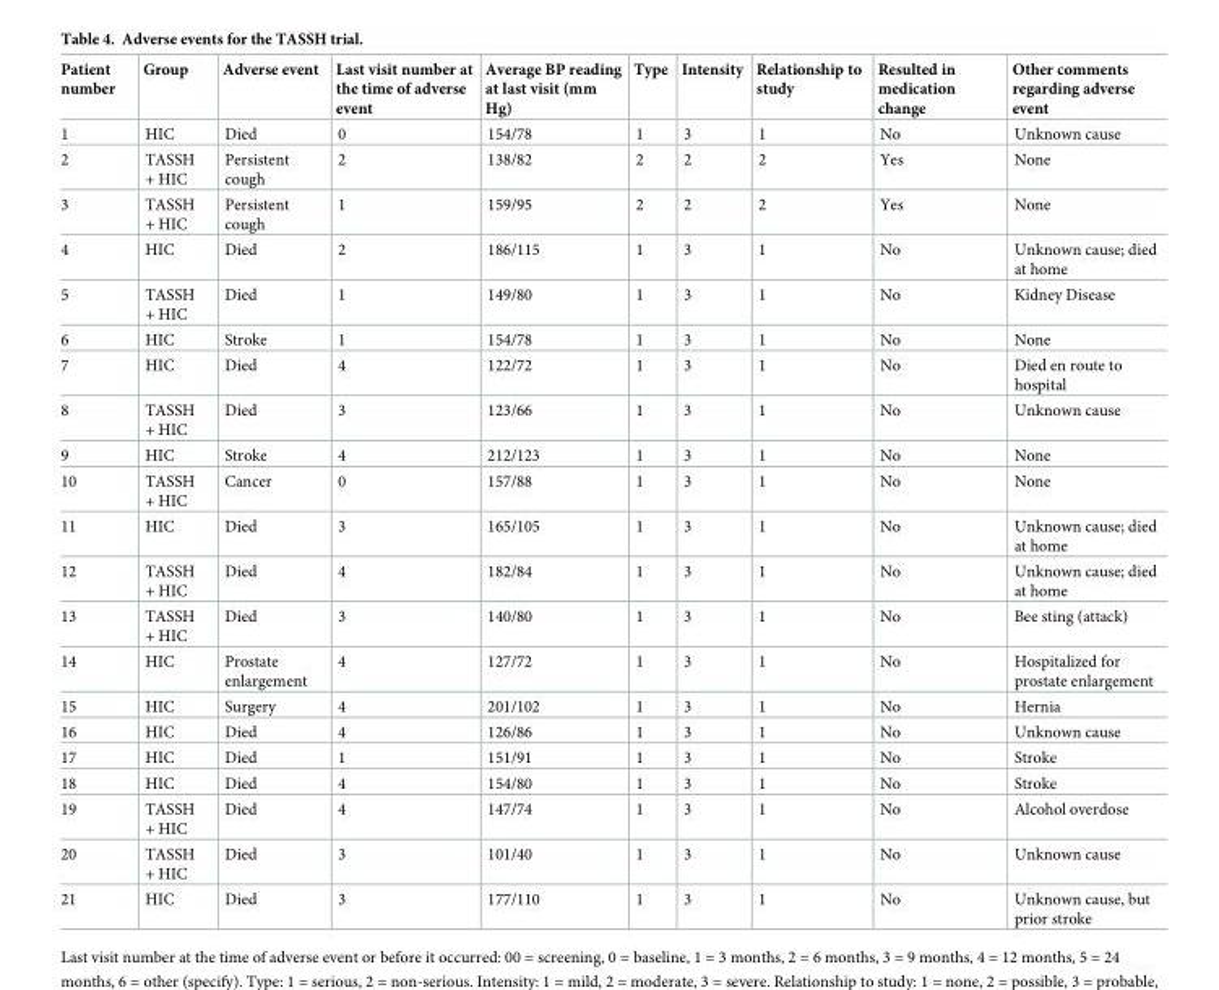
<table><thead><tr><td>Patient number</td><td>Group</td><td>Adverse event</td><td>Last visit number at the time of adverse event</td><td>Average BP reading at last visit (mm Hg)</td><td>Type</td><td>Intensity</td><td>Relationship to study</td><td>Resulted in medication change</td><td>Other comments regarding adverse event</td></tr></thead><tbody><tr><td>1</td><td>HIC</td><td>Died</td><td>0</td><td>154/78</td><td>1</td><td>3</td><td>1</td><td>No</td><td>Unknown cause</td></tr><tr><td>2</td><td>TASSH + HIC</td><td>Persistent cough</td><td>2</td><td>138/82</td><td>2</td><td>2</td><td>2</td><td>Yes</td><td>None</td></tr><tr><td>3</td><td>TASSH + HIC</td><td>Persistent cough</td><td>1</td><td>159/95</td><td>2</td><td>2</td><td>2</td><td>Yes</td><td>None</td></tr><tr><td>4</td><td>HIC</td><td>Died</td><td>2</td><td>186/115</td><td>1</td><td>3</td><td>1</td><td>No</td><td>Unknown cause; died at home</td></tr><tr><td>5</td><td>TASSH + HIC</td><td>Died</td><td>1</td><td>149/80</td><td>1</td><td>3</td><td>1</td><td>No</td><td>Kidney Disease</td></tr><tr><td>6</td><td>HIC</td><td>Stroke</td><td>1</td><td>154/78</td><td>1</td><td>3</td><td>1</td><td>No</td><td>None</td></tr><tr><td>7</td><td>HIC</td><td>Died</td><td>4</td><td>122/72</td><td>1</td><td>3</td><td>1</td><td>No</td><td>Died en route to hospital</td></tr><tr><td>8</td><td>TASSH + HIC</td><td>Died</td><td>3</td><td>123/66</td><td>1</td><td>3</td><td>1</td><td>No</td><td>Unknown cause</td></tr><tr><td>9</td><td>HIC</td><td>Stroke</td><td>4</td><td>212/123</td><td>1</td><td>3</td><td>1</td><td>No</td><td>None</td></tr><tr><td>10</td><td>TASSH + HIC</td><td>Cancer</td><td>0</td><td>157/88</td><td>1</td><td>3</td><td>1</td><td>No</td><td>None</td></tr><tr><td>11</td><td>HIC</td><td>Died</td><td>3</td><td>165/105</td><td>1</td><td>3</td><td>1</td><td>No</td><td>Unknown cause; died at home</td></tr><tr><td>12</td><td>TASSH + HIC</td><td>Died</td><td>4</td><td>182/84</td><td>1</td><td>3</td><td>1</td><td>No</td><td>Unknown cause; died at home</td></tr><tr><td>13</td><td>TASSH + HIC</td><td>Died</td><td>3</td><td>140/80</td><td>1</td><td>3</td><td>1</td><td>No</td><td>Bee sting (attack)</td></tr><tr><td>14</td><td>HIC</td><td>Prostate enlargement</td><td>4</td><td>127/72</td><td>1</td><td>3</td><td>1</td><td>No</td><td>Hospitalized for prostate enlargement</td></tr><tr><td>15</td><td>HIC</td><td>Surgery</td><td>4</td><td>201/102</td><td>1</td><td>3</td><td>1</td><td>No</td><td>Hernia</td></tr><tr><td>16</td><td>HIC</td><td>Died</td><td>4</td><td>126/86</td><td>1</td><td>3</td><td>1</td><td>No</td><td>Unknown cause</td></tr><tr><td>17</td><td>HIC</td><td>Died</td><td>1</td><td>151/91</td><td>1</td><td>3</td><td>1</td><td>No</td><td>Stroke</td></tr><tr><td>18</td><td>HIC</td><td>Died</td><td>4</td><td>154/80</td><td>1</td><td>3</td><td>1</td><td>No</td><td>Stroke</td></tr><tr><td>19</td><td>TASSH + HIC</td><td>Died</td><td>4</td><td>147/74</td><td>1</td><td>3</td><td>1</td><td>No</td><td>Alcohol overdose</td></tr><tr><td>20</td><td>TASSH + HIC</td><td>Died</td><td>3</td><td>101/40</td><td>1</td><td>3</td><td>1</td><td>No</td><td>Unknown cause</td></tr><tr><td>21</td><td>HIC</td><td>Died</td><td>3</td><td>177/110</td><td>1</td><td>3</td><td>1</td><td>No</td><td>Unknown cause, but prior stroke</td></tr></tbody></table>